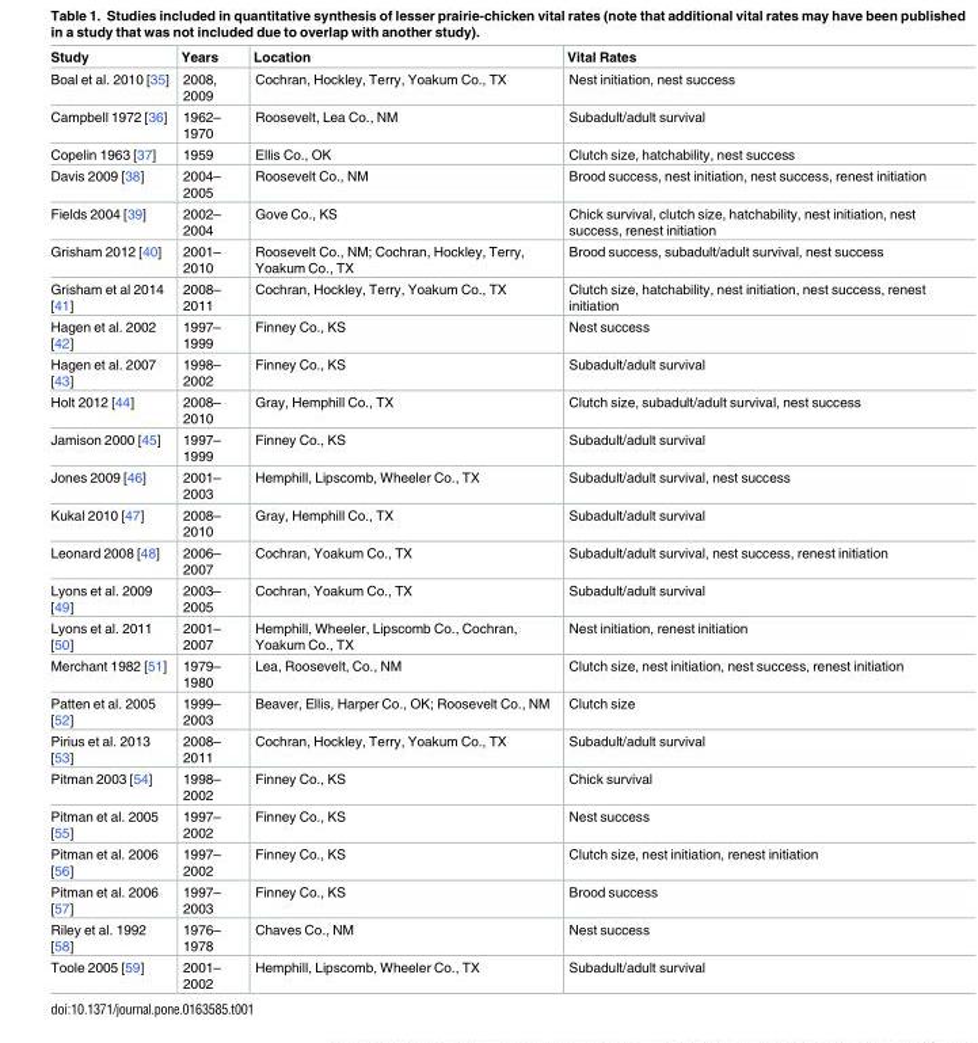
<table><thead><tr><td>Study</td><td>Years</td><td>Location</td><td>Vital Rates</td></tr></thead><tbody><tr><td>Boal et al. 2010 [35]</td><td>2008, 2009</td><td>Cochran, Hockley, Terry, Yoakum Co., TX</td><td>Nest initiation, nest success</td></tr><tr><td>Campbell 1972 [36]</td><td>1962– 1970</td><td>Roosevelt, Lea Co., NM</td><td>Subadult/adult survival</td></tr><tr><td>Copelin 1963 [37]</td><td>1959</td><td>Ellis Co., OK</td><td>Clutch size, hatchability, nest success</td></tr><tr><td>Davis 2009 [38]</td><td>2004– 2005</td><td>Roosevelt Co., NM</td><td>Brood success, nest initiation, nest success, renest initiation</td></tr><tr><td>Fields 2004 [39]</td><td>2002– 2004</td><td>Gove Co., KS</td><td>Chick survival, clutch size, hatchability, nest initiation, nest success, renest initiation</td></tr><tr><td>Grisham 2012 [40]</td><td>2001– 2010</td><td>Roosevelt Co., NM; Cochran, Hockley, Terry, Yoakum Co., TX</td><td>Brood success, subadult/adult survival, nest success</td></tr><tr><td>Grisham et al 2014 [41]</td><td>2008– 2011</td><td>Cochran, Hockley, Terry, Yoakum Co., TX</td><td>Clutch size, hatchability, nest initiation, nest success, renest initiation</td></tr><tr><td>Hagen et al. 2002 [42]</td><td>1997– 1999</td><td>Finney Co., KS</td><td>Nest success</td></tr><tr><td>Hagen et al. 2007 [43]</td><td>1998– 2002</td><td>Finney Co., KS</td><td>Subadult/adult survival</td></tr><tr><td>Holt 2012 [44]</td><td>2008– 2010</td><td>Gray, Hemphill Co., TX</td><td>Clutch size, subadult/adult survival, nest success</td></tr><tr><td>Jamison 2000 [45]</td><td>1997– 1999</td><td>Finney Co., KS</td><td>Subadult/adult survival</td></tr><tr><td>Jones 2009 [46]</td><td>2001– 2003</td><td>Hemphill, Lipscomb, Wheeler Co., TX</td><td>Subadult/adult survival, nest success</td></tr><tr><td>Kukal 2010 [47]</td><td>2008– 2010</td><td>Gray, Hemphill Co., TX</td><td>Subadult/adult survival</td></tr><tr><td>Leonard 2008 [48]</td><td>2006– 2007</td><td>Cochran, Yoakum Co., TX</td><td>Subadult/adult survival, nest success, renest initiation</td></tr><tr><td>Lyons et al. 2009 [49]</td><td>2003– 2005</td><td>Cochran, Yoakum Co., TX</td><td>Subadult/adult survival</td></tr><tr><td>Lyons et al. 2011 [50]</td><td>2001– 2007</td><td>Hemphill, Wheeler, Lipscomb Co., Cochran, Yoakum Co., TX</td><td>Nest initiation, renest initiation</td></tr><tr><td>Merchant 1982 [51]</td><td>1979– 1980</td><td>Lea, Roosevelt, Co., NM</td><td>Clutch size, nest initiation, nest success, renest initiation</td></tr><tr><td>Patten et al. 2005 [52]</td><td>1999– 2003</td><td>Beaver, Ellis, Harper Co., OK; Roosevelt Co., NM</td><td>Clutch size</td></tr><tr><td>Pirius et al. 2013 [53]</td><td>2008– 2011</td><td>Cochran, Hockley, Terry, Yoakum Co., TX</td><td>Subadult/adult survival</td></tr><tr><td>Pitman 2003 [54]</td><td>1998– 2002</td><td>Finney Co., KS</td><td>Chick survival</td></tr><tr><td>Pitman et al. 2005 [55]</td><td>1997– 2002</td><td>Finney Co., KS</td><td>Nest success</td></tr><tr><td>Pitman et al. 2006 [56]</td><td>1997– 2002</td><td>Finney Co., KS</td><td>Clutch size, nest initiation, renest initiation</td></tr><tr><td>Pitman et al. 2006 [57]</td><td>1997– 2003</td><td>Finney Co., KS</td><td>Brood success</td></tr><tr><td>Riley et al. 1992 [58]</td><td>1976– 1978</td><td>Chaves Co., NM</td><td>Nest success</td></tr><tr><td>Toole 2005 [59]</td><td>2001– 2002</td><td>Hemphill, Lipscomb, Wheeler Co., TX</td><td>Subadult/adult survival</td></tr></tbody></table>